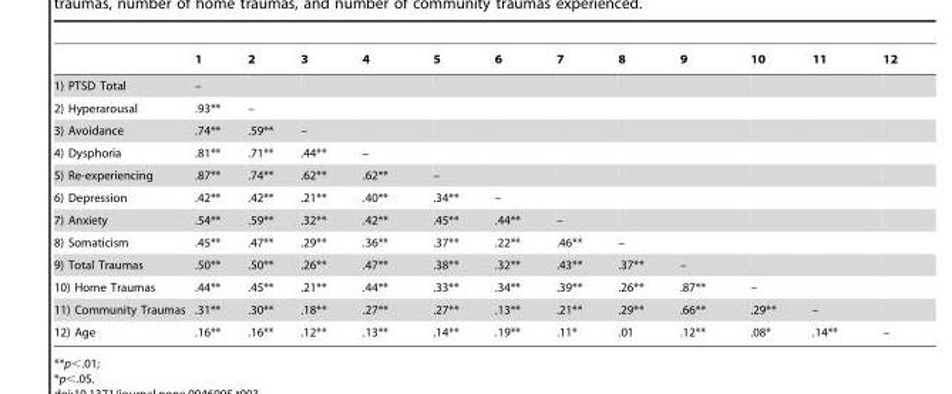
<table><thead><tr><td></td><td>1</td><td>2</td><td>3</td><td>4</td><td>5</td><td>6</td><td>7</td><td>8</td><td>9</td><td>10</td><td>11</td><td>12</td></tr></thead><tbody><tr><td>1) PTSD Total</td><td>–</td><td></td><td></td><td></td><td></td><td></td><td></td><td></td><td></td><td></td><td></td><td></td></tr><tr><td>2) Hyperarousal</td><td>.93**</td><td>–</td><td></td><td></td><td></td><td></td><td></td><td></td><td></td><td></td><td></td><td></td></tr><tr><td>3) Avoidance</td><td>.74**</td><td>.59**</td><td>–</td><td></td><td></td><td></td><td></td><td></td><td></td><td></td><td></td><td></td></tr><tr><td>4) Dysphoria</td><td>.81**</td><td>.71**</td><td>.44**</td><td>–</td><td></td><td></td><td></td><td></td><td></td><td></td><td></td><td></td></tr><tr><td>5) Re-experiencing</td><td>.87**</td><td>.74**</td><td>.62**</td><td>.62**</td><td>–</td><td></td><td></td><td></td><td></td><td></td><td></td><td></td></tr><tr><td>6) Depression</td><td>.42**</td><td>.42**</td><td>.21**</td><td>.40**</td><td>.34**</td><td>–</td><td></td><td></td><td></td><td></td><td></td><td></td></tr><tr><td>7) Anxiety</td><td>.54**</td><td>.59**</td><td>.32**</td><td>.42**</td><td>.45**</td><td>.44**</td><td>–</td><td></td><td></td><td></td><td></td><td></td></tr><tr><td>8) Somaticism</td><td>.45**</td><td>.47**</td><td>.29**</td><td>.36**</td><td>.37**</td><td>.22**</td><td>.46**</td><td>–</td><td></td><td></td><td></td><td></td></tr><tr><td>9) Total Traumas</td><td>.50**</td><td>.50**</td><td>.26**</td><td>.47**</td><td>.38**</td><td>.32**</td><td>.43**</td><td>.37**</td><td>–</td><td></td><td></td><td></td></tr><tr><td>10) Home Traumas</td><td>.44**</td><td>.45**</td><td>.21**</td><td>.44**</td><td>.33**</td><td>.34**</td><td>.39**</td><td>.26**</td><td>.87**</td><td>–</td><td></td><td></td></tr><tr><td>11) Community Traumas</td><td>.31**</td><td>.30**</td><td>.18**</td><td>.27**</td><td>.27**</td><td>.13**</td><td>.21**</td><td>.29**</td><td>.66**</td><td>.29**</td><td>–</td><td></td></tr><tr><td>12) Age</td><td>.16**</td><td>.16**</td><td>.12**</td><td>.13**</td><td>.14**</td><td>.19**</td><td>.11*</td><td>.01</td><td>.12**</td><td>.08*</td><td>.14**</td><td>–</td></tr></tbody></table>